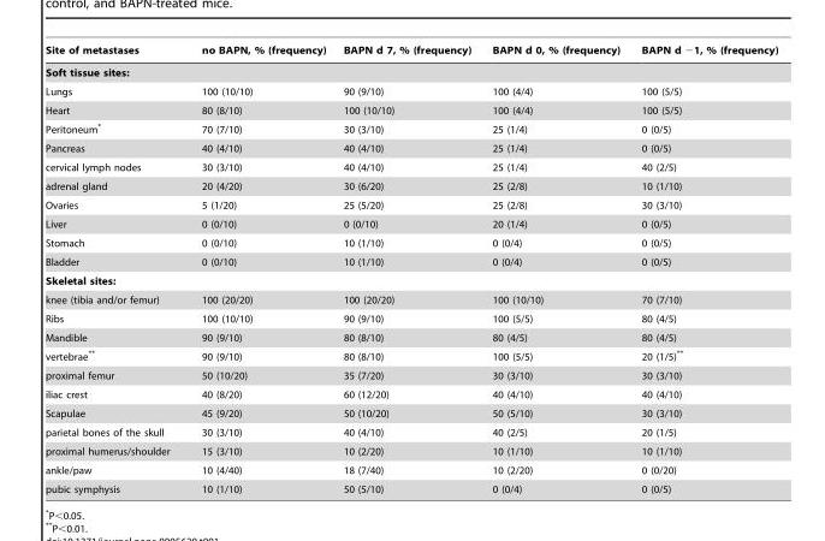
<table><thead><tr><td>Site of metastases</td><td>no BAPN, % (frequency)</td><td>BAPN d 7, % (frequency)</td><td>BAPN d 0, % (frequency)</td><td>BAPN d −1, % (frequency)</td></tr></thead><tbody><tr><td colspan="5">Soft tissue sites:</td></tr><tr><td>Lungs</td><td>100 (10/10)</td><td>90 (9/10)</td><td>100 (4/4)</td><td>100 (5/5)</td></tr><tr><td>Heart</td><td>80 (8/10)</td><td>100 (10/10)</td><td>100 (4/4)</td><td>100 (5/5)</td></tr><tr><td>Peritoneum*</td><td>70 (7/10)</td><td>30 (3/10)</td><td>25 (1/4)</td><td>0 (0/5)</td></tr><tr><td>Pancreas</td><td>40 (4/10)</td><td>40 (4/10)</td><td>25 (1/4)</td><td>0 (0/5)</td></tr><tr><td>cervical lymph nodes</td><td>30 (3/10)</td><td>40 (4/10)</td><td>25 (1/4)</td><td>40 (2/5)</td></tr><tr><td>adrenal gland</td><td>20 (4/20)</td><td>30 (6/20)</td><td>25 (2/8)</td><td>10 (1/10)</td></tr><tr><td>Ovaries</td><td>5 (1/20)</td><td>25 (5/20)</td><td>25 (2/8)</td><td>30 (3/10)</td></tr><tr><td>Liver</td><td>0 (0/10)</td><td>0 (0/10)</td><td>20 (1/4)</td><td>0 (0/5)</td></tr><tr><td>Stomach</td><td>0 (0/10)</td><td>10 (1/10)</td><td>0 (0/4)</td><td>0 (0/5)</td></tr><tr><td>Bladder</td><td>0 (0/10)</td><td>10 (1/10)</td><td>0 (0/4)</td><td>0 (0/5)</td></tr><tr><td colspan="5">Skeletal sites:</td></tr><tr><td>knee (tibia and/or femur)</td><td>100 (20/20)</td><td>100 (20/20)</td><td>100 (10/10)</td><td>70 (7/10)</td></tr><tr><td>Ribs</td><td>100 (10/10)</td><td>90 (9/10)</td><td>100 (5/5)</td><td>80 (4/5)</td></tr><tr><td>Mandible</td><td>90 (9/10)</td><td>80 (8/10)</td><td>80 (4/5)</td><td>80 (4/5)</td></tr><tr><td>vertebrae**</td><td>90 (9/10)</td><td>80 (8/10)</td><td>100 (5/5)</td><td>20 (1/5)**</td></tr><tr><td>proximal femur</td><td>50 (10/20)</td><td>35 (7/20)</td><td>30 (3/10)</td><td>30 (3/10)</td></tr><tr><td>iliac crest</td><td>40 (8/20)</td><td>60 (12/20)</td><td>40 (4/10)</td><td>40 (4/10)</td></tr><tr><td>Scapulae</td><td>45 (9/20)</td><td>50 (10/20)</td><td>50 (5/10)</td><td>30 (3/10)</td></tr><tr><td>parietal bones of the skull</td><td>30 (3/10)</td><td>40 (4/10)</td><td>40 (2/5)</td><td>20 (1/5)</td></tr><tr><td>proximal humerus/shoulder</td><td>15 (3/10)</td><td>10 (2/20)</td><td>10 (1/10)</td><td>10 (1/10)</td></tr><tr><td>ankle/paw</td><td>10 (4/40)</td><td>18 (7/40)</td><td>10 (2/20)</td><td>0 (0/20)</td></tr><tr><td>pubic symphysis</td><td>10 (1/10)</td><td>50 (5/10)</td><td>0 (0/4)</td><td>0 (0/5)</td></tr></tbody></table>